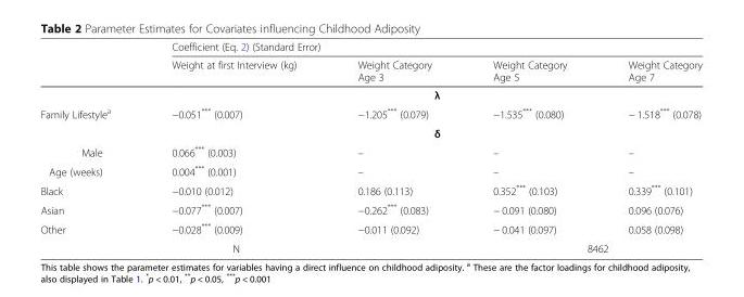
<table><thead><tr><td rowspan="2"></td><td colspan="4">Coefficient (Eq. 2) (Standard Error)</td></tr><tr><td>Weight at first Interview (kg)</td><td>Weight Category Age 3</td><td>Weight Category Age 5</td><td>Weight Category Age 7</td></tr></thead><tbody><tr><td></td><td colspan="4">λ</td></tr><tr><td rowspan="2">Family Lifestyle<sup>a</sup></td><td>−0.051*** (0.007)</td><td>−1.205*** (0.079)</td><td>−1.535*** (0.080)</td><td>− 1.518*** (0.078)</td></tr><tr><td colspan="4">δ</td></tr><tr><td>Male</td><td>0.066*** (0.003)</td><td>–</td><td>–</td><td>–</td></tr><tr><td>Age (weeks)</td><td>0.004*** (0.001)</td><td>–</td><td>–</td><td>–</td></tr><tr><td>Black</td><td>−0.010 (0.012)</td><td>0.186 (0.113)</td><td>0.352*** (0.103)</td><td>0.339*** (0.101)</td></tr><tr><td>Asian</td><td>−0.077*** (0.007)</td><td>−0.262*** (0.083)</td><td>− 0.091 (0.080)</td><td>0.096 (0.076)</td></tr><tr><td>Other</td><td>−0.028*** (0.009)</td><td>−0.011 (0.092)</td><td>− 0.041 (0.097)</td><td>0.058 (0.098)</td></tr><tr><td colspan="3">N</td><td colspan="2">8462</td></tr></tbody></table>